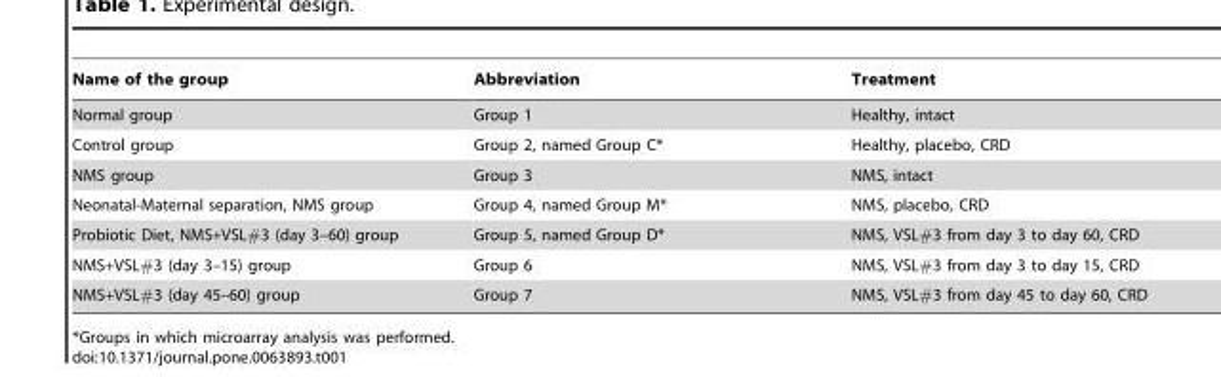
<table><thead><tr><td>Name of the group</td><td>Abbreviation</td><td>Treatment</td></tr></thead><tbody><tr><td>Normal group</td><td>Group 1</td><td>Healthy, intact</td></tr><tr><td>Control group</td><td>Group 2, named Group C*</td><td>Healthy, placebo, CRD</td></tr><tr><td>NMS group</td><td>Group 3</td><td>NMS, intact</td></tr><tr><td>Neonatal-Maternal separation, NMS group</td><td>Group 4, named Group M*</td><td>NMS, placebo, CRD</td></tr><tr><td>Probiotic Diet, NMS+VSL#3 (day 3–60) group</td><td>Group 5, named Group D*</td><td>NMS, VSL#3 from day 3 to day 60, CRD</td></tr><tr><td>NMS+VSL#3 (day 3–15) group</td><td>Group 6</td><td>NMS, VSL#3 from day 3 to day 15, CRD</td></tr><tr><td>NMS+VSL#3 (day 45–60) group</td><td>Group 7</td><td>NMS, VSL#3 from day 45 to day 60, CRD</td></tr></tbody></table>